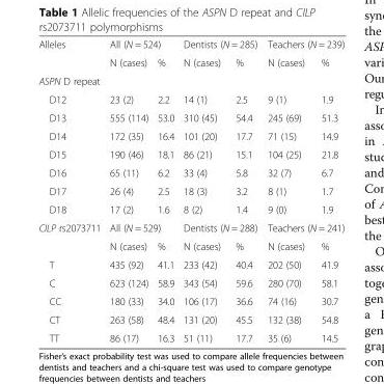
<table><tbody><tr><td rowspan="2">Alleles</td><td colspan="2">All (N = 524)</td><td colspan="2">Dentists (N = 285)</td><td colspan="2">Teachers (N = 239)</td></tr><tr><td>N (cases)</td><td>%</td><td>N (cases)</td><td>%</td><td>N (cases)</td><td>%</td></tr><tr><td colspan="7">ASPN D repeat</td></tr><tr><td>D12</td><td>23 (2)</td><td>2.2</td><td>14 (1)</td><td>2.5</td><td>9 (1)</td><td>1.9</td></tr><tr><td>D13</td><td>555 (114)</td><td>53.0</td><td>310 (45)</td><td>54.4</td><td>245 (69)</td><td>51.3</td></tr><tr><td>D14</td><td>172 (35)</td><td>16.4</td><td>101 (20)</td><td>17.7</td><td>71 (15)</td><td>14.9</td></tr><tr><td>D15</td><td>190 (46)</td><td>18.1</td><td>86 (21)</td><td>15.1</td><td>104 (25)</td><td>21.8</td></tr><tr><td>D16</td><td>65 (11)</td><td>6.2</td><td>33 (4)</td><td>5.8</td><td>32 (7)</td><td>6.7</td></tr><tr><td>D17</td><td>26 (4)</td><td>2.5</td><td>18 (3)</td><td>3.2</td><td>8 (1)</td><td>1.7</td></tr><tr><td>D18</td><td>17 (2)</td><td>1.6</td><td>8 (2)</td><td>1.4</td><td>9 (0)</td><td>1.9</td></tr><tr><td rowspan="2">CILP rs2073711</td><td colspan="2">All (N = 529)</td><td colspan="2">Dentists (N = 288)</td><td colspan="2">Teachers (N = 241)</td></tr><tr><td>N (cases)</td><td>%</td><td>N (cases)</td><td>%</td><td>N (cases)</td><td>%</td></tr><tr><td>T</td><td>435 (92)</td><td>41.1</td><td>233 (42)</td><td>40.4</td><td>202 (50)</td><td>41.9</td></tr><tr><td>C</td><td>623 (124)</td><td>58.9</td><td>343 (54)</td><td>59.6</td><td>280 (70)</td><td>58.1</td></tr><tr><td>CC</td><td>180 (33)</td><td>34.0</td><td>106 (17)</td><td>36.6</td><td>74 (16)</td><td>30.7</td></tr><tr><td>CT</td><td>263 (58)</td><td>48.4</td><td>131 (20)</td><td>45.5</td><td>132 (38)</td><td>54.8</td></tr><tr><td>TT</td><td>86 (17)</td><td>16.3</td><td>51 (11)</td><td>17.7</td><td>35 (6)</td><td>14.5</td></tr></tbody></table>